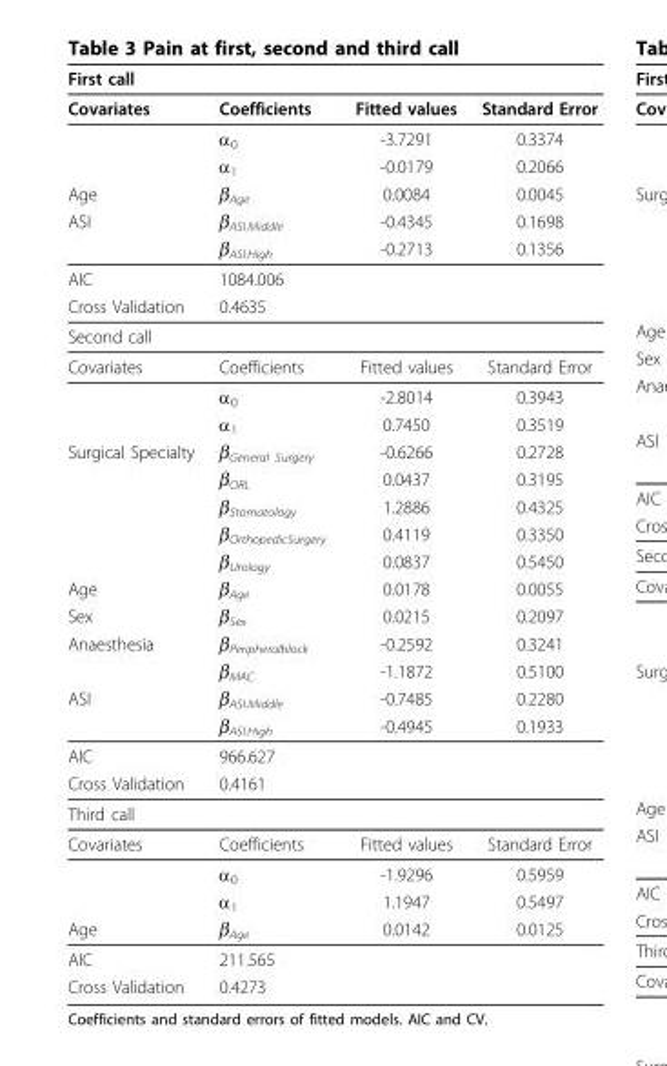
<table><thead><tr><td>First call</td><td></td><td></td><td></td></tr></thead><tbody><tr><td rowspan="3">Covariates</td><td>Coefficients</td><td>Fitted values</td><td>Standard Error</td></tr><tr><td>α<sub>0</sub></td><td>-3.7291</td><td>0.3374</td></tr><tr><td>α<sub>1</sub></td><td>-0.0179</td><td>0.2066</td></tr><tr><td>Age</td><td>β<sub>Age</sub></td><td>0.0084</td><td>0.0045</td></tr><tr><td rowspan="2">ASI</td><td>β<sub>ASI.Middle</sub></td><td>-0.4345</td><td>0.1698</td></tr><tr><td>β<sub>ASI.High</sub></td><td>-0.2713</td><td>0.1356</td></tr><tr><td>AIC</td><td>1084.006</td><td></td><td></td></tr><tr><td>Cross Validation</td><td>0.4635</td><td></td><td></td></tr><tr><td colspan="4">Second call</td></tr><tr><td rowspan="3">Covariates</td><td>Coefficients</td><td>Fitted values</td><td>Standard Error</td></tr><tr><td>α<sub>0</sub></td><td>-2.8014</td><td>0.3943</td></tr><tr><td>α<sub>1</sub></td><td>0.7450</td><td>0.3519</td></tr><tr><td rowspan="5">Surgical Specialty</td><td>β<sub>General Surgery</sub></td><td>-0.6266</td><td>0.2728</td></tr><tr><td>β<sub>ORL</sub></td><td>0.0437</td><td>0.3195</td></tr><tr><td>β<sub>Stomatology</sub></td><td>1.2886</td><td>0.4325</td></tr><tr><td>β<sub>OrthopedicSurgery</sub></td><td>0.4119</td><td>0.3350</td></tr><tr><td>β<sub>Urology</sub></td><td>0.0837</td><td>0.5450</td></tr><tr><td>Age</td><td>β<sub>Age</sub></td><td>0.0178</td><td>0.0055</td></tr><tr><td>Sex</td><td>β<sub>Sex</sub></td><td>0.0215</td><td>0.2097</td></tr><tr><td rowspan="2">Anaesthesia</td><td>β<sub>Peripheralblock</sub></td><td>-0.2592</td><td>0.3241</td></tr><tr><td>β<sub>MAC</sub></td><td>-1.1872</td><td>0.5100</td></tr><tr><td rowspan="2">ASI</td><td>β<sub>ASI.Middle</sub></td><td>-0.7485</td><td>0.2280</td></tr><tr><td>β<sub>ASI.High</sub></td><td>-0.4945</td><td>0.1933</td></tr><tr><td>AIC</td><td>966.627</td><td></td><td></td></tr><tr><td>Cross Validation</td><td>0.4161</td><td></td><td></td></tr><tr><td colspan="4">Third call</td></tr><tr><td rowspan="3">Covariates</td><td>Coefficients</td><td>Fitted values</td><td>Standard Error</td></tr><tr><td>α<sub>0</sub></td><td>-1.9296</td><td>0.5959</td></tr><tr><td>α<sub>1</sub></td><td>1.1947</td><td>0.5497</td></tr><tr><td>Age</td><td>β<sub>Age</sub></td><td>0.0142</td><td>0.0125</td></tr><tr><td>AIC</td><td>211.565</td><td></td><td></td></tr><tr><td>Cross Validation</td><td>0.4273</td><td></td><td></td></tr></tbody></table>